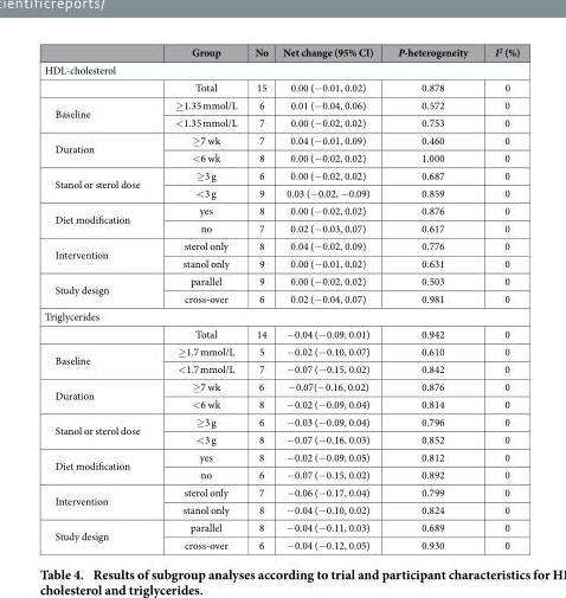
<table><thead><tr><td></td><td>Group</td><td>No</td><td>Net change (95% CI)</td><td>P-heterogeneity</td><td>I<sup>2</sup> (%)</td></tr></thead><tbody><tr><td colspan="6">HDL-cholesterol</td></tr><tr><td></td><td>Total</td><td>15</td><td>0.00 (− 0.01, 0.02)</td><td>0.878</td><td>0</td></tr><tr><td rowspan="2">Baseline</td><td>≥ 1.35 mmol/L</td><td>6</td><td>0.01 (− 0.04, 0.06)</td><td>0.572</td><td>0</td></tr><tr><td>&lt; 1.35 mmol/L</td><td>7</td><td>0.00 (− 0.02, 0.02)</td><td>0.753</td><td>0</td></tr><tr><td rowspan="2">Duration</td><td>≥ 7 wk</td><td>7</td><td>0.04 (− 0.01, 0.09)</td><td>0.460</td><td>0</td></tr><tr><td>&lt; 6 wk</td><td>8</td><td>0.00 (− 0.02, 0.02)</td><td>1.000</td><td>0</td></tr><tr><td rowspan="2">Stanol or sterol dose</td><td>≥ 3 g</td><td>6</td><td>0.00 (− 0.02, 0.02)</td><td>0.687</td><td>0</td></tr><tr><td>&lt; 3 g</td><td>9</td><td>0.03 (− 0.02, − 0.09)</td><td>0.859</td><td>0</td></tr><tr><td rowspan="2">Diet modification</td><td>yes</td><td>8</td><td>0.00 (− 0.02, 0.02)</td><td>0.876</td><td>0</td></tr><tr><td>no</td><td>7</td><td>0.02 (− 0.03, 0.07)</td><td>0.617</td><td>0</td></tr><tr><td rowspan="2">Intervention</td><td>sterol only</td><td>8</td><td>0.04 (− 0.02, 0.09)</td><td>0.776</td><td>0</td></tr><tr><td>stanol only</td><td>9</td><td>0.00 (− 0.01, 0.02)</td><td>0.631</td><td>0</td></tr><tr><td rowspan="2">Study design</td><td>parallel</td><td>9</td><td>0.00 (− 0.02, 0.02)</td><td>0.503</td><td>0</td></tr><tr><td>cross-over</td><td>6</td><td>0.02 (− 0.04, 0.07)</td><td>0.981</td><td>0</td></tr><tr><td colspan="6">Triglycerides</td></tr><tr><td></td><td>Total</td><td>14</td><td>− 0.04 (− 0.09, 0.01)</td><td>0.942</td><td>0</td></tr><tr><td rowspan="2">Baseline</td><td>≥ 1.7 mmol/L</td><td>5</td><td>− 0.02 (− 0.10, 0.07)</td><td>0.610</td><td>0</td></tr><tr><td>&lt; 1.7 mmol/L</td><td>7</td><td>− 0.07 (− 0.15, 0.02)</td><td>0.842</td><td>0</td></tr><tr><td rowspan="2">Duration</td><td>≥ 7 wk</td><td>6</td><td>− 0.07(− 0.16, 0.02)</td><td>0.876</td><td>0</td></tr><tr><td>&lt; 6 wk</td><td>8</td><td>− 0.02 (− 0.09, 0.04)</td><td>0.814</td><td>0</td></tr><tr><td rowspan="2">Stanol or sterol dose</td><td>≥ 3 g</td><td>6</td><td>− 0.03 (− 0.09, 0.04)</td><td>0.796</td><td>0</td></tr><tr><td>&lt; 3 g</td><td>8</td><td>− 0.07 (− 0.16, 0.03)</td><td>0.852</td><td>0</td></tr><tr><td rowspan="2">Diet modification</td><td>yes</td><td>8</td><td>− 0.02 (− 0.09, 0.05)</td><td>0.812</td><td>0</td></tr><tr><td>no</td><td>6</td><td>− 0.07 (− 0.15, 0.02)</td><td>0.892</td><td>0</td></tr><tr><td rowspan="2">Intervention</td><td>sterol only</td><td>7</td><td>− 0.06 (− 0.17, 0.04)</td><td>0.799</td><td>0</td></tr><tr><td>stanol only</td><td>8</td><td>− 0.04 (− 0.10, 0.02)</td><td>0.824</td><td>0</td></tr><tr><td rowspan="2">Study design</td><td>parallel</td><td>8</td><td>− 0.04 (− 0.11, 0.03)</td><td>0.689</td><td>0</td></tr><tr><td>cross-over</td><td>6</td><td>− 0.04 (− 0.12, 0.05)</td><td>0.930</td><td>0</td></tr></tbody></table>